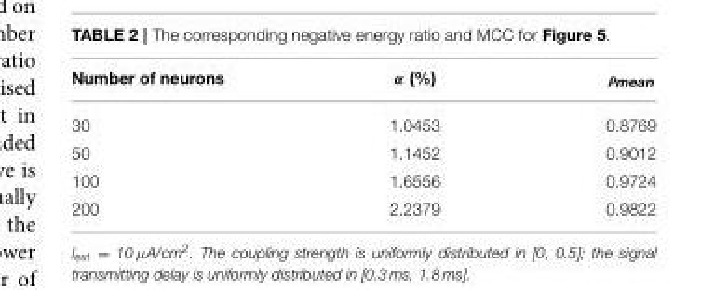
<table><thead><tr><td>Number of neurons</td><td>α (%)</td><td>ρmean</td></tr></thead><tbody><tr><td>30</td><td>1.0453</td><td>0.8769</td></tr><tr><td>50</td><td>1.1452</td><td>0.9012</td></tr><tr><td>100</td><td>1.6556</td><td>0.9724</td></tr><tr><td>200</td><td>2.2379</td><td>0.9822</td></tr></tbody></table>